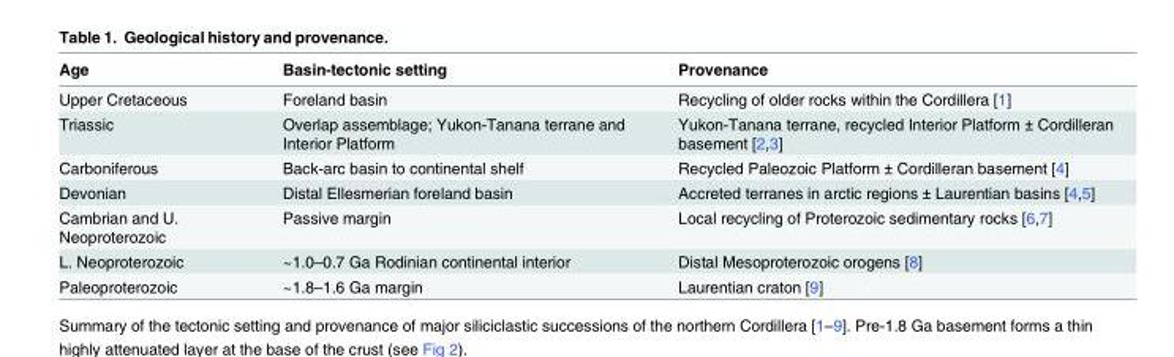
<table><thead><tr><td>Age</td><td>Basin-tectonic setting</td><td>Provenance</td></tr></thead><tbody><tr><td>Upper Cretaceous</td><td>Foreland basin</td><td>Recycling of older rocks within the Cordillera [1]</td></tr><tr><td>Triassic</td><td>Overlap assemblage; Yukon-Tanana terrane and Interior Platform</td><td>Yukon-Tanana terrane, recycled Interior Platform ± Cordilleran basement [2,3]</td></tr><tr><td>Carboniferous</td><td>Back-arc basin to continental shelf</td><td>Recycled Paleozoic Platform ± Cordilleran basement [4]</td></tr><tr><td>Devonian</td><td>Distal Ellesmerian foreland basin</td><td>Accreted terranes in arctic regions ± Laurentian basins [4,5]</td></tr><tr><td>Cambrian and U. Neoproterozoic</td><td>Passive margin</td><td>Local recycling of Proterozoic sedimentary rocks [6,7]</td></tr><tr><td>L. Neoproterozoic</td><td>~1.0–0.7 Ga Rodinian continental interior</td><td>Distal Mesoproterozoic orogens [8]</td></tr><tr><td>Paleoproterozoic</td><td>~1.8–1.6 Ga margin</td><td>Laurentian craton [9]</td></tr></tbody></table>